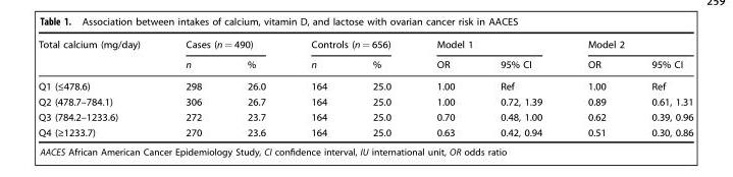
<table><thead><tr><td rowspan="2">Total calcium (mg/day)</td><td colspan="2">Cases (n = 490)</td><td colspan="2">Controls (n = 656)</td><td colspan="2">Model 1</td><td colspan="2">Model 2</td></tr><tr><td>n</td><td>%</td><td>n</td><td>%</td><td>OR</td><td>95% CI</td><td>OR</td><td>95% CI</td></tr></thead><tbody><tr><td>Q1 (≤478.6)</td><td>298</td><td>26.0</td><td>164</td><td>25.0</td><td>1.00</td><td>Ref</td><td>1.00</td><td>Ref</td></tr><tr><td>Q2 (478.7–784.1)</td><td>306</td><td>26.7</td><td>164</td><td>25.0</td><td>1.00</td><td>0.72, 1.39</td><td>0.89</td><td>0.61, 1.31</td></tr><tr><td>Q3 (784.2–1233.6)</td><td>272</td><td>23.7</td><td>164</td><td>25.0</td><td>0.70</td><td>0.48, 1.00</td><td>0.62</td><td>0.39, 0.96</td></tr><tr><td>Q4 (≥1233.7)</td><td>270</td><td>23.6</td><td>164</td><td>25.0</td><td>0.63</td><td>0.42, 0.94</td><td>0.51</td><td>0.30, 0.86</td></tr></tbody></table>